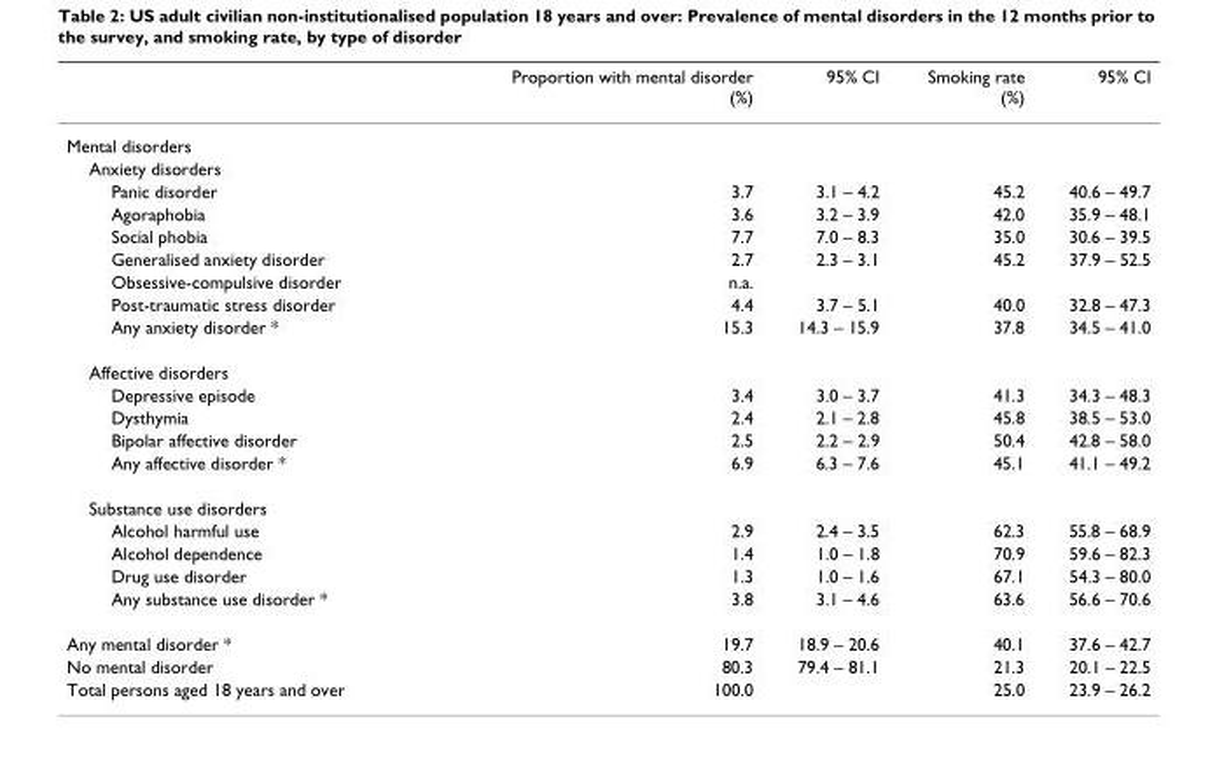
<table><thead><tr><td></td><td>Proportion with mental disorder (%)</td><td>95% CI</td><td>Smoking rate (%)</td><td>95% CI</td></tr></thead><tbody><tr><td colspan="5">Mental disorders</td></tr><tr><td colspan="5">Anxiety disorders</td></tr><tr><td>Panic disorder</td><td>3.7</td><td>3.1 – 4.2</td><td>45.2</td><td>40.6 – 49.7</td></tr><tr><td>Agoraphobia</td><td>3.6</td><td>3.2 – 3.9</td><td>42.0</td><td>35.9 – 48.1</td></tr><tr><td>Social phobia</td><td>7.7</td><td>7.0 – 8.3</td><td>35.0</td><td>30.6 – 39.5</td></tr><tr><td>Generalised anxiety disorder</td><td>2.7</td><td>2.3 – 3.1</td><td>45.2</td><td>37.9 – 52.5</td></tr><tr><td>Obsessive-compulsive disorder</td><td>n.a.</td><td></td><td></td><td></td></tr><tr><td>Post-traumatic stress disorder</td><td>4.4</td><td>3.7 – 5.1</td><td>40.0</td><td>32.8 – 47.3</td></tr><tr><td>Any anxiety disorder *</td><td>15.3</td><td>14.3 – 15.9</td><td>37.8</td><td>34.5 – 41.0</td></tr><tr><td colspan="5">Affective disorders</td></tr><tr><td>Depressive episode</td><td>3.4</td><td>3.0 – 3.7</td><td>41.3</td><td>34.3 – 48.3</td></tr><tr><td>Dysthymia</td><td>2.4</td><td>2.1 – 2.8</td><td>45.8</td><td>38.5 – 53.0</td></tr><tr><td>Bipolar affective disorder</td><td>2.5</td><td>2.2 – 2.9</td><td>50.4</td><td>42.8 – 58.0</td></tr><tr><td>Any affective disorder *</td><td>6.9</td><td>6.3 – 7.6</td><td>45.1</td><td>41.1 – 49.2</td></tr><tr><td colspan="5">Substance use disorders</td></tr><tr><td>Alcohol harmful use</td><td>2.9</td><td>2.4 – 3.5</td><td>62.3</td><td>55.8 – 68.9</td></tr><tr><td>Alcohol dependence</td><td>1.4</td><td>1.0 – 1.8</td><td>70.9</td><td>59.6 – 82.3</td></tr><tr><td>Drug use disorder</td><td>1.3</td><td>1.0 – 1.6</td><td>67.1</td><td>54.3 – 80.0</td></tr><tr><td>Any substance use disorder *</td><td>3.8</td><td>3.1 – 4.6</td><td>63.6</td><td>56.6 – 70.6</td></tr><tr><td>Any mental disorder *</td><td>19.7</td><td>18.9 – 20.6</td><td>40.1</td><td>37.6 – 42.7</td></tr><tr><td>No mental disorder</td><td>80.3</td><td>79.4 – 81.1</td><td>21.3</td><td>20.1 – 22.5</td></tr><tr><td>Total persons aged 18 years and over</td><td>100.0</td><td></td><td>25.0</td><td>23.9 – 26.2</td></tr></tbody></table>